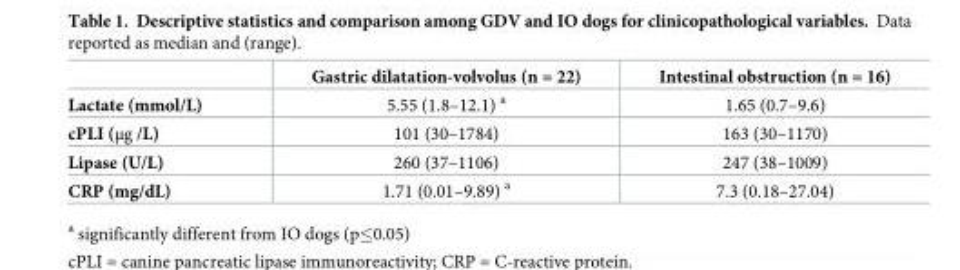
<table><thead><tr><td></td><td>Gastric dilatation-volvolus (n = 22)</td><td>Intestinal obstruction (n = 16)</td></tr></thead><tbody><tr><td>Lactate (mmol/L)</td><td>5.55 (1.8–12.1) <sup>a</sup></td><td>1.65 (0.7–9.6)</td></tr><tr><td>cPLI (μg /L)</td><td>101 (30–1784)</td><td>163 (30–1170)</td></tr><tr><td>Lipase (U/L)</td><td>260 (37–1106)</td><td>247 (38–1009)</td></tr><tr><td>CRP (mg/dL)</td><td>1.71 (0.01–9.89) <sup>a</sup></td><td>7.3 (0.18–27.04)</td></tr></tbody></table>